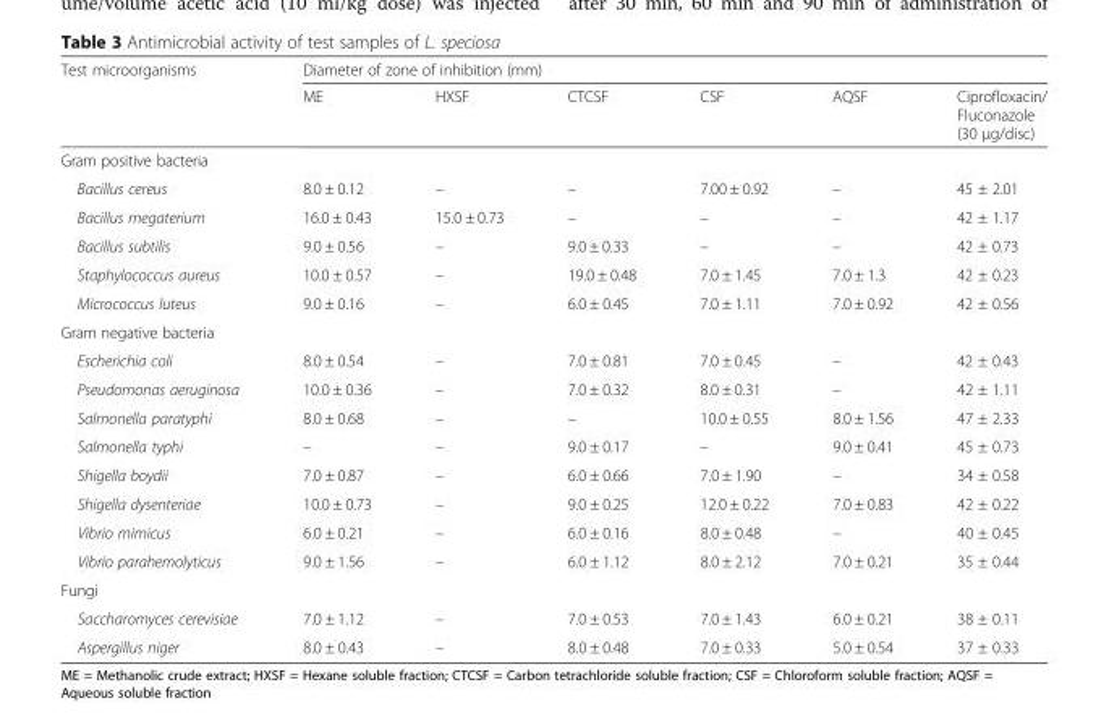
<table><thead><tr><td rowspan="2">Test microorganisms</td><td colspan="6">Diameter of zone of inhibition (mm)</td></tr><tr><td>ME</td><td>HXSF</td><td>CTCSF</td><td>CSF</td><td>AQSF</td><td>Ciprofloxacin/ Fluconazole (30 μg/disc)</td></tr></thead><tbody><tr><td colspan="7">Gram positive bacteria</td></tr><tr><td>Bacillus cereus</td><td>8.0 ± 0.12</td><td>–</td><td>–</td><td>7.00 ± 0.92</td><td>–</td><td>45 ± 2.01</td></tr><tr><td>Bacillus megaterium</td><td>16.0 ± 0.43</td><td>15.0 ± 0.73</td><td>–</td><td>–</td><td>–</td><td>42 ± 1.17</td></tr><tr><td>Bacillus subtilis</td><td>9.0 ± 0.56</td><td>–</td><td>9.0 ± 0.33</td><td>–</td><td>–</td><td>42 ± 0.73</td></tr><tr><td>Staphylococcus aureus</td><td>10.0 ± 0.57</td><td>–</td><td>19.0 ± 0.48</td><td>7.0 ± 1.45</td><td>7.0 ± 1.3</td><td>42 ± 0.23</td></tr><tr><td>Micrococcus luteus</td><td>9.0 ± 0.16</td><td>–</td><td>6.0 ± 0.45</td><td>7.0 ± 1.11</td><td>7.0 ± 0.92</td><td>42 ± 0.56</td></tr><tr><td colspan="7">Gram negative bacteria</td></tr><tr><td>Escherichia coli</td><td>8.0 ± 0.54</td><td>–</td><td>7.0 ± 0.81</td><td>7.0 ± 0.45</td><td>–</td><td>42 ± 0.43</td></tr><tr><td>Pseudomonas aeruginosa</td><td>10.0 ± 0.36</td><td>–</td><td>7.0 ± 0.32</td><td>8.0 ± 0.31</td><td>–</td><td>42 ± 1.11</td></tr><tr><td>Salmonella paratyphi</td><td>8.0 ± 0.68</td><td>–</td><td>–</td><td>10.0 ± 0.55</td><td>8.0 ± 1.56</td><td>47 ± 2.33</td></tr><tr><td>Salmonella typhi</td><td>–</td><td>–</td><td>9.0 ± 0.17</td><td>–</td><td>9.0 ± 0.41</td><td>45 ± 0.73</td></tr><tr><td>Shigella boydii</td><td>7.0 ± 0.87</td><td>–</td><td>6.0 ± 0.66</td><td>7.0 ± 1.90</td><td>–</td><td>34 ± 0.58</td></tr><tr><td>Shigella dysenteriae</td><td>10.0 ± 0.73</td><td>–</td><td>9.0 ± 0.25</td><td>12.0 ± 0.22</td><td>7.0 ± 0.83</td><td>42 ± 0.22</td></tr><tr><td>Vibrio mimicus</td><td>6.0 ± 0.21</td><td>–</td><td>6.0 ± 0.16</td><td>8.0 ± 0.48</td><td>–</td><td>40 ± 0.45</td></tr><tr><td>Vibrio parahemolyticus</td><td>9.0 ± 1.56</td><td>–</td><td>6.0 ± 1.12</td><td>8.0 ± 2.12</td><td>7.0 ± 0.21</td><td>35 ± 0.44</td></tr><tr><td colspan="7">Fungi</td></tr><tr><td>Saccharomyces cerevisiae</td><td>7.0 ± 1.12</td><td>–</td><td>7.0 ± 0.53</td><td>7.0 ± 1.43</td><td>6.0 ± 0.21</td><td>38 ± 0.11</td></tr><tr><td>Aspergillus niger</td><td>8.0 ± 0.43</td><td>–</td><td>8.0 ± 0.48</td><td>7.0 ± 0.33</td><td>5.0 ± 0.54</td><td>37 ± 0.33</td></tr></tbody></table>